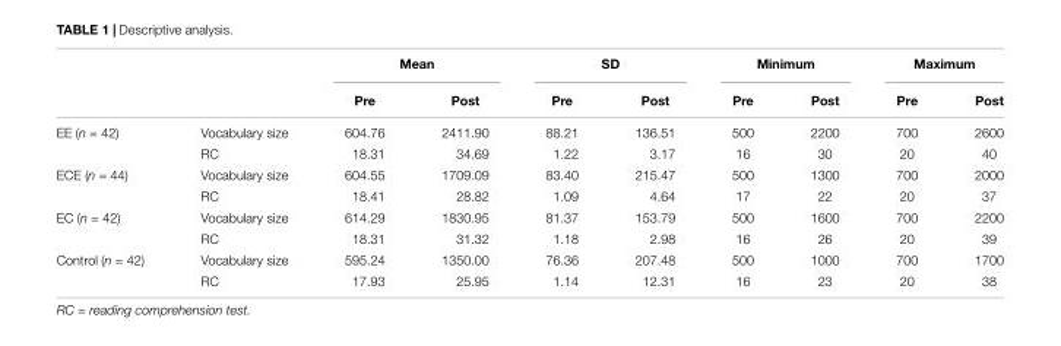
<table><thead><tr><td rowspan="2"></td><td rowspan="2"></td><td colspan="2">Mean</td><td colspan="2">SD</td><td colspan="2">Minimum</td><td colspan="2">Maximum</td></tr><tr><td>Pre</td><td>Post</td><td>Pre</td><td>Post</td><td>Pre</td><td>Post</td><td>Pre</td><td>Post</td></tr></thead><tbody><tr><td rowspan="2">EE (n = 42)</td><td>Vocabulary size</td><td>604.76</td><td>2411.90</td><td>88.21</td><td>136.51</td><td>500</td><td>2200</td><td>700</td><td>2600</td></tr><tr><td>RC</td><td>18.31</td><td>34.69</td><td>1.22</td><td>3.17</td><td>16</td><td>30</td><td>20</td><td>40</td></tr><tr><td rowspan="2">ECE (n = 44)</td><td>Vocabulary size</td><td>604.55</td><td>1709.09</td><td>83.40</td><td>215.47</td><td>500</td><td>1300</td><td>700</td><td>2000</td></tr><tr><td>RC</td><td>18.41</td><td>28.82</td><td>1.09</td><td>4.64</td><td>17</td><td>22</td><td>20</td><td>37</td></tr><tr><td rowspan="2">EC (n = 42)</td><td>Vocabulary size</td><td>614.29</td><td>1830.95</td><td>81.37</td><td>153.79</td><td>500</td><td>1600</td><td>700</td><td>2200</td></tr><tr><td>RC</td><td>18.31</td><td>31.32</td><td>1.18</td><td>2.98</td><td>16</td><td>26</td><td>20</td><td>39</td></tr><tr><td rowspan="2">Control (n = 42)</td><td>Vocabulary size</td><td>595.24</td><td>1350.00</td><td>76.36</td><td>207.48</td><td>500</td><td>1000</td><td>700</td><td>1700</td></tr><tr><td>RC</td><td>17.93</td><td>25.95</td><td>1.14</td><td>12.31</td><td>16</td><td>23</td><td>20</td><td>38</td></tr></tbody></table>